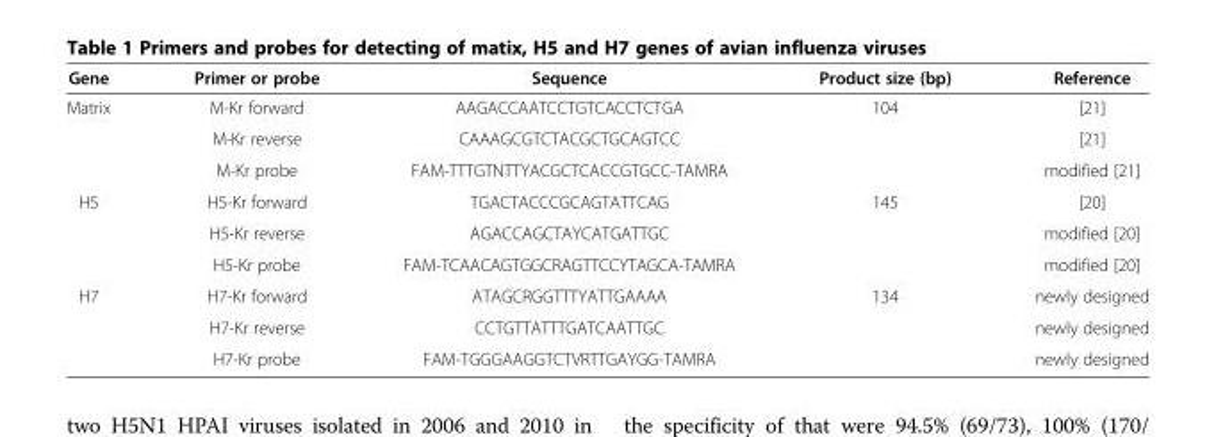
<table><thead><tr><td>Gene</td><td>Primer or probe</td><td>Sequence</td><td>Product size (bp)</td><td>Reference</td></tr></thead><tbody><tr><td rowspan="3">Matrix</td><td>M-Kr forward</td><td>AAGACCAATCCTGTCACCTCTGA</td><td rowspan="3">104</td><td>[21]</td></tr><tr><td>M-Kr reverse</td><td>CAAAGCGTCTACGCTGCAGTCC</td><td>[21]</td></tr><tr><td>M-Kr probe</td><td>FAM-TTTGTNTTYACGCTCACCGTGCC-TAMRA</td><td>modified [21]</td></tr><tr><td rowspan="3">H5</td><td>H5-Kr forward</td><td>TGACTACCCGCAGTATTCAG</td><td rowspan="3">145</td><td>[20]</td></tr><tr><td>H5-Kr reverse</td><td>AGACCAGCTAYCATGATTGC</td><td>modified [20]</td></tr><tr><td>H5-Kr probe</td><td>FAM-TCAACAGTGGCRAGTTCCYTAGCA-TAMRA</td><td>modified [20]</td></tr><tr><td rowspan="3">H7</td><td>H7-Kr forward</td><td>ATAGCRGGTTTYATTGAAAA</td><td rowspan="3">134</td><td>newly designed</td></tr><tr><td>H7-Kr reverse</td><td>CCTGTTATTTGATCAATTGC</td><td>newly designed</td></tr><tr><td>H7-Kr probe</td><td>FAM-TGGGAAGGTCTVRTTGAYGG-TAMRA</td><td>newly designed</td></tr></tbody></table>